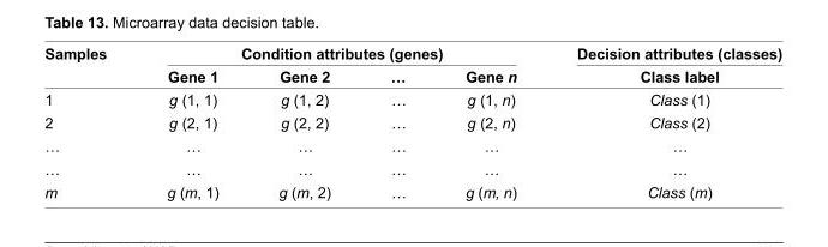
<table><thead><tr><td rowspan="2">Samples</td><td colspan="4">Condition attributes (genes)</td><td rowspan="2">Decision attributes (classes) Class label</td></tr><tr><td>Gene 1</td><td>Gene 2</td><td>…</td><td>Gene n</td></tr></thead><tbody><tr><td>1</td><td>g (1, 1)</td><td>g (1, 2)</td><td>…</td><td>g (1, n)</td><td>Class (1)</td></tr><tr><td>2</td><td>g (2, 1)</td><td>g (2, 2)</td><td>…</td><td>g (2, n)</td><td>Class (2)</td></tr><tr><td>…</td><td>…</td><td>…</td><td>…</td><td>…</td><td>…</td></tr><tr><td>…</td><td>…</td><td>…</td><td>…</td><td>…</td><td>…</td></tr><tr><td>m</td><td>g (m, 1)</td><td>g (m, 2)</td><td>…</td><td>g (m, n)</td><td>Class (m)</td></tr></tbody></table>